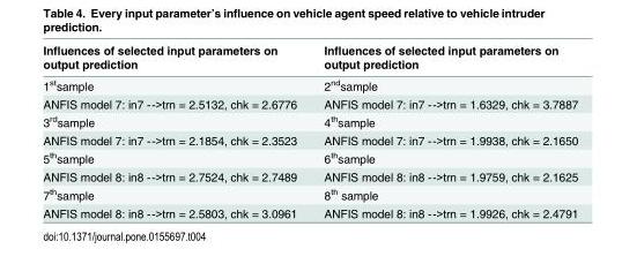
<table><thead><tr><td>Influences of selected input parameters on output prediction</td><td>Influences of selected input parameters on output prediction</td></tr></thead><tbody><tr><td>1stsample</td><td>2ndsample</td></tr><tr><td>ANFIS model 7: in7 --&gt;trn = 2.5132, chk = 2.6776</td><td>ANFIS model 7: in7 --&gt;trn = 1.6329, chk = 3.7887</td></tr><tr><td>3rdsample</td><td>4thsample</td></tr><tr><td>ANFIS model 7: in7 --&gt;trn = 2.1854, chk = 2.3523</td><td>ANFIS model 7: in7 --&gt;trn = 1.9938, chk = 2.1650</td></tr><tr><td>5thsample</td><td>6thsample</td></tr><tr><td>ANFIS model 8: in8 --&gt;trn = 2.7524, chk = 2.7489</td><td>ANFIS model 8: in8 --&gt;trn = 1.9759, chk = 2.1625</td></tr><tr><td>7thsample</td><td>8th sample</td></tr><tr><td>ANFIS model 8: in8 --&gt;trn = 2.5803, chk = 3.0961</td><td>ANFIS model 8: in8 --&gt;trn = 1.9926, chk = 2.4791</td></tr></tbody></table>